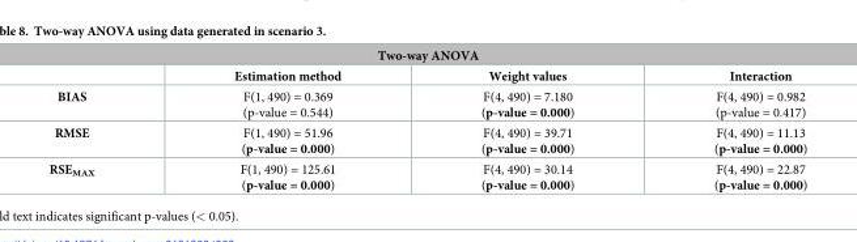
<table><thead><tr><td colspan="4">Two-way ANOVA</td></tr><tr><td></td><td>Estimation method</td><td>Weight values</td><td>Interaction</td></tr></thead><tbody><tr><td>BIAS</td><td>F(1, 490) = 0.369 (p-value = 0.544)</td><td>F(4, 490) = 7.180 (p-value = 0.000)</td><td>F(4, 490) = 0.982 (p-value = 0.417)</td></tr><tr><td>RMSE</td><td>F(1, 490) = 51.96 (p-value = 0.000)</td><td>F(4, 490) = 39.71 (p-value = 0.000)</td><td>F(4, 490) = 11.13 (p-value = 0.000)</td></tr><tr><td>RSE<sub>MAX</sub></td><td>F(1, 490) = 125.61 (p-value = 0.000)</td><td>F(4, 490) = 30.14 (p-value = 0.000)</td><td>F(4, 490) = 22.87 (p-value = 0.000)</td></tr></tbody></table>